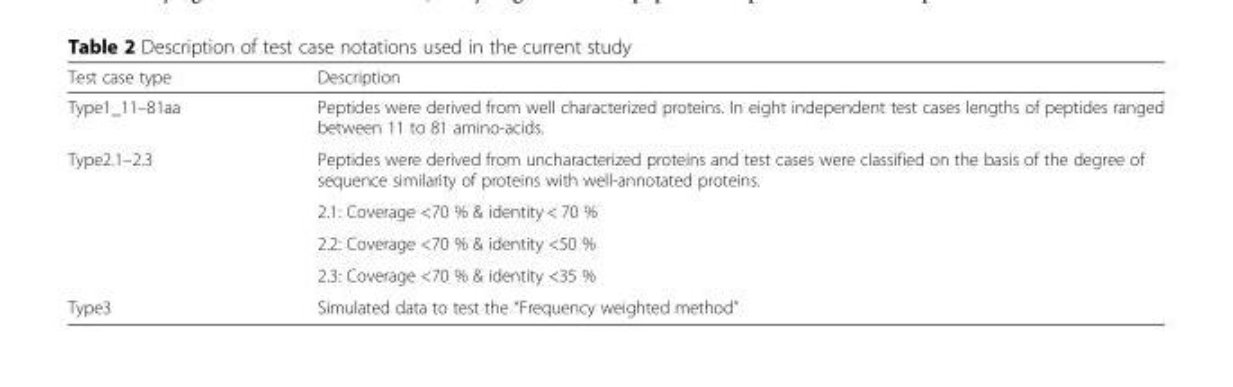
<table><thead><tr><td>Test case type</td><td>Description</td></tr></thead><tbody><tr><td>Type1_11–81aa</td><td>Peptides were derived from well characterized proteins. In eight independent test cases lengths of peptides ranged between 11 to 81 amino-acids.</td></tr><tr><td rowspan="4">Type2.1–2.3</td><td>Peptides were derived from uncharacterized proteins and test cases were classified on the basis of the degree of sequence similarity of proteins with well-annotated proteins.</td></tr><tr><td>2.1: Coverage &lt;70 % &amp; identity &lt; 70 %</td></tr><tr><td>2.2: Coverage &lt;70 % &amp; identity &lt;50 %</td></tr><tr><td>2.3: Coverage &lt;70 % &amp; identity &lt;35 %</td></tr><tr><td>Type3</td><td>Simulated data to test the “Frequency weighted method”</td></tr></tbody></table>